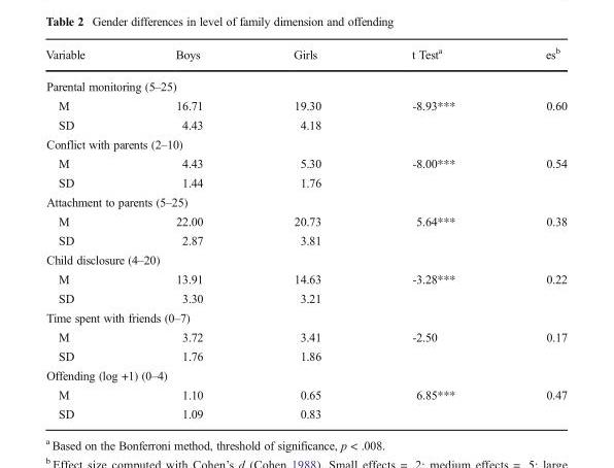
<table><thead><tr><td>Variable</td><td>Boys</td><td>Girls</td><td>t Test<sup>a</sup></td><td>es<sup>b</sup></td></tr></thead><tbody><tr><td colspan="5">Parental monitoring (5–25)</td></tr><tr><td>M</td><td>16.71</td><td>19.30</td><td>-8.93***</td><td>0.60</td></tr><tr><td>SD</td><td>4.43</td><td>4.18</td><td></td><td></td></tr><tr><td colspan="5">Conflict with parents (2–10)</td></tr><tr><td>M</td><td>4.43</td><td>5.30</td><td>-8.00***</td><td>0.54</td></tr><tr><td>SD</td><td>1.44</td><td>1.76</td><td></td><td></td></tr><tr><td colspan="5">Attachment to parents (5–25)</td></tr><tr><td>M</td><td>22.00</td><td>20.73</td><td>5.64***</td><td>0.38</td></tr><tr><td>SD</td><td>2.87</td><td>3.81</td><td></td><td></td></tr><tr><td colspan="5">Child disclosure (4–20)</td></tr><tr><td>M</td><td>13.91</td><td>14.63</td><td>-3.28***</td><td>0.22</td></tr><tr><td>SD</td><td>3.30</td><td>3.21</td><td></td><td></td></tr><tr><td colspan="5">Time spent with friends (0–7)</td></tr><tr><td>M</td><td>3.72</td><td>3.41</td><td>-2.50</td><td>0.17</td></tr><tr><td>SD</td><td>1.76</td><td>1.86</td><td></td><td></td></tr><tr><td colspan="5">Offending (log +1) (0–4)</td></tr><tr><td>M</td><td>1.10</td><td>0.65</td><td>6.85***</td><td>0.47</td></tr><tr><td>SD</td><td>1.09</td><td>0.83</td><td></td><td></td></tr></tbody></table>